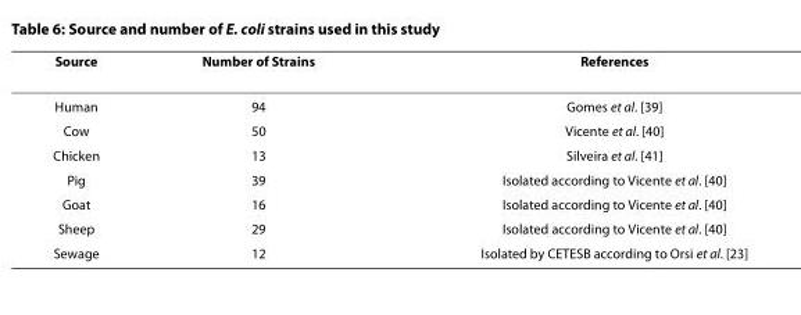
<table><thead><tr><td>Source</td><td>Number of Strains</td><td>References</td></tr></thead><tbody><tr><td>Human</td><td>94</td><td>Gomes et al. [39]</td></tr><tr><td>Cow</td><td>50</td><td>Vicente et al. [40]</td></tr><tr><td>Chicken</td><td>13</td><td>Silveira et al. [41]</td></tr><tr><td>Pig</td><td>39</td><td>Isolated according to Vicente et al. [40]</td></tr><tr><td>Goat</td><td>16</td><td>Isolated according to Vicente et al. [40]</td></tr><tr><td>Sheep</td><td>29</td><td>Isolated according to Vicente et al. [40]</td></tr><tr><td>Sewage</td><td>12</td><td>Isolated by CETESB according to Orsi et al. [23]</td></tr></tbody></table>